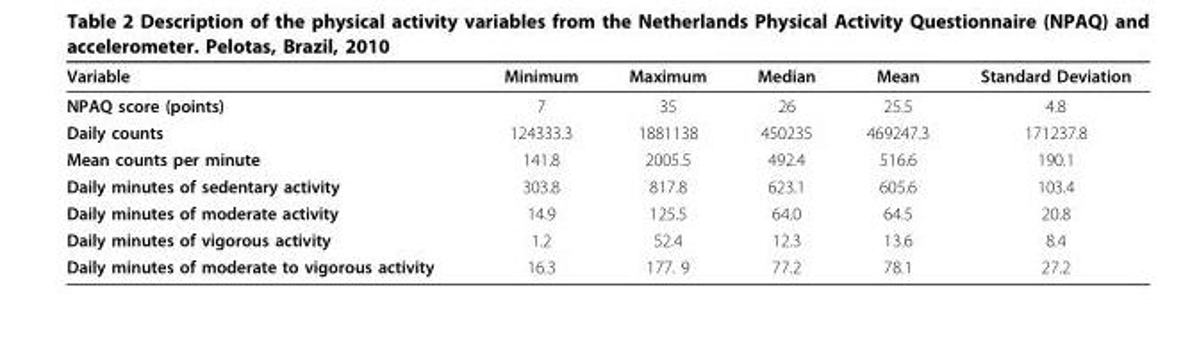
<table><thead><tr><td>Variable</td><td>Minimum</td><td>Maximum</td><td>Median</td><td>Mean</td><td>Standard Deviation</td></tr></thead><tbody><tr><td>NPAQ score (points)</td><td>7</td><td>35</td><td>26</td><td>25.5</td><td>4.8</td></tr><tr><td>Daily counts</td><td>124333.3</td><td>1881138</td><td>450235</td><td>469247.3</td><td>171237.8</td></tr><tr><td>Mean counts per minute</td><td>141.8</td><td>2005.5</td><td>492.4</td><td>516.6</td><td>190.1</td></tr><tr><td>Daily minutes of sedentary activity</td><td>303.8</td><td>817.8</td><td>623.1</td><td>605.6</td><td>103.4</td></tr><tr><td>Daily minutes of moderate activity</td><td>14.9</td><td>125.5</td><td>64.0</td><td>64.5</td><td>20.8</td></tr><tr><td>Daily minutes of vigorous activity</td><td>1.2</td><td>52.4</td><td>12.3</td><td>13.6</td><td>8.4</td></tr><tr><td>Daily minutes of moderate to vigorous activity</td><td>16.3</td><td>177. 9</td><td>77.2</td><td>78.1</td><td>27.2</td></tr></tbody></table>